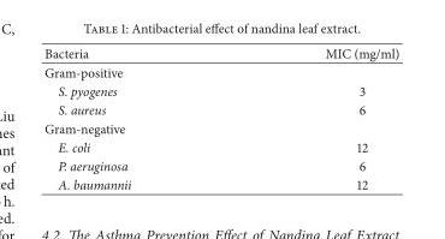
<table><thead><tr><td>Bacteria</td><td>MIC (mg/ml)</td></tr></thead><tbody><tr><td colspan="2">Gram-positive</td></tr><tr><td>S. pyogenes</td><td>3</td></tr><tr><td>S. aureus</td><td>6</td></tr><tr><td colspan="2">Gram-negative</td></tr><tr><td>E. coli</td><td>12</td></tr><tr><td>P. aeruginosa</td><td>6</td></tr><tr><td>A. baumannii</td><td>12</td></tr></tbody></table>